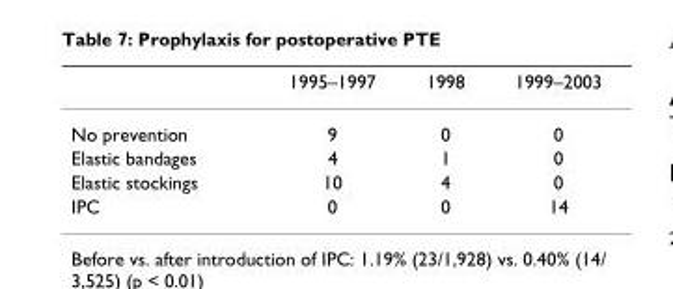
<table><thead><tr><td></td><td>1995–1997</td><td>1998</td><td>1999–2003</td></tr></thead><tbody><tr><td>No prevention</td><td>9</td><td>0</td><td>0</td></tr><tr><td>Elastic bandages</td><td>4</td><td>1</td><td>0</td></tr><tr><td>Elastic stockings</td><td>10</td><td>4</td><td>0</td></tr><tr><td>IPC</td><td>0</td><td>0</td><td>14</td></tr></tbody></table>